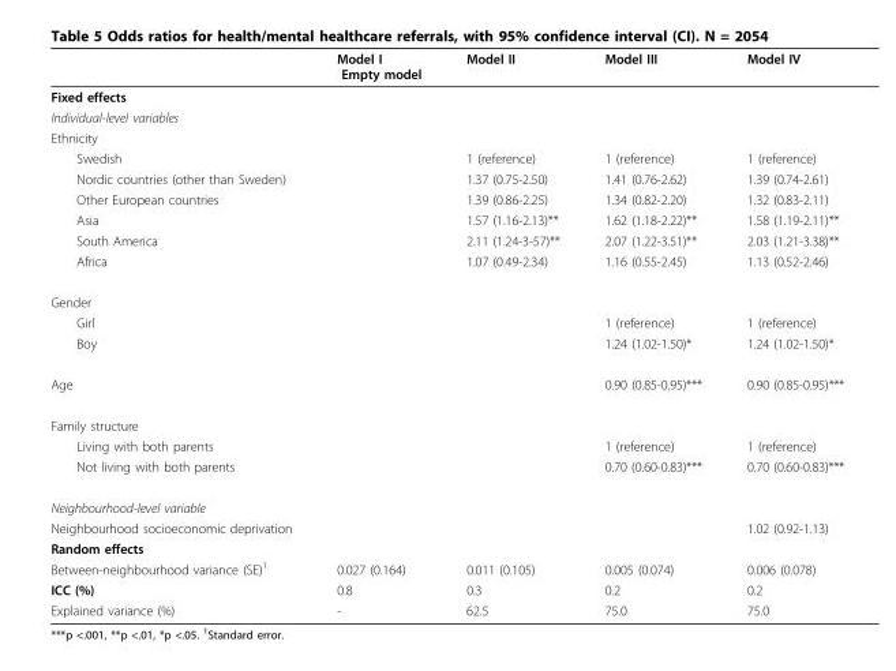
<table><thead><tr><td></td><td>Model I Empty model</td><td>Model II</td><td>Model III</td><td>Model IV</td></tr></thead><tbody><tr><td colspan="5">Fixed effects</td></tr><tr><td colspan="5">Individual-level variables</td></tr><tr><td colspan="5">Ethnicity</td></tr><tr><td>Swedish</td><td></td><td>1 (reference)</td><td>1 (reference)</td><td>1 (reference)</td></tr><tr><td>Nordic countries (other than Sweden)</td><td></td><td>1.37 (0.75-2.50)</td><td>1.41 (0.76-2.62)</td><td>1.39 (0.74-2.61)</td></tr><tr><td>Other European countries</td><td></td><td>1.39 (0.86-2.25)</td><td>1.34 (0.82-2.20)</td><td>1.32 (0.83-2.11)</td></tr><tr><td>Asia</td><td></td><td>1.57 (1.16-2.13)**</td><td>1.62 (1.18-2.22)**</td><td>1.58 (1.19-2.11)**</td></tr><tr><td>South America</td><td></td><td>2.11 (1.24-3-57)**</td><td>2.07 (1.22-3.51)**</td><td>2.03 (1.21-3.38)**</td></tr><tr><td>Africa</td><td></td><td>1.07 (0.49-2.34)</td><td>1.16 (0.55-2.45)</td><td>1.13 (0.52-2.46)</td></tr><tr><td colspan="5">Gender</td></tr><tr><td>Girl</td><td></td><td></td><td>1 (reference)</td><td>1 (reference)</td></tr><tr><td>Boy</td><td></td><td></td><td>1.24 (1.02-1.50)*</td><td>1.24 (1.02-1.50)*</td></tr><tr><td>Age</td><td></td><td></td><td>0.90 (0.85-0.95)***</td><td>0.90 (0.85-0.95)***</td></tr><tr><td colspan="5">Family structure</td></tr><tr><td>Living with both parents</td><td></td><td></td><td>1 (reference)</td><td>1 (reference)</td></tr><tr><td>Not living with both parents</td><td></td><td></td><td>0.70 (0.60-0.83)***</td><td>0.70 (0.60-0.83)***</td></tr><tr><td colspan="5">Neighbourhood-level variable</td></tr><tr><td>Neighbourhood socioeconomic deprivation</td><td></td><td></td><td></td><td>1.02 (0.92-1.13)</td></tr><tr><td colspan="5">Random effects</td></tr><tr><td>Between-neighbourhood variance (SE)<sup>1</sup></td><td>0.027 (0.164)</td><td>0.011 (0.105)</td><td>0.005 (0.074)</td><td>0.006 (0.078)</td></tr><tr><td>ICC (%)</td><td>0.8</td><td>0.3</td><td>0.2</td><td>0.2</td></tr><tr><td>Explained variance (%)</td><td>-</td><td>62.5</td><td>75.0</td><td>75.0</td></tr></tbody></table>